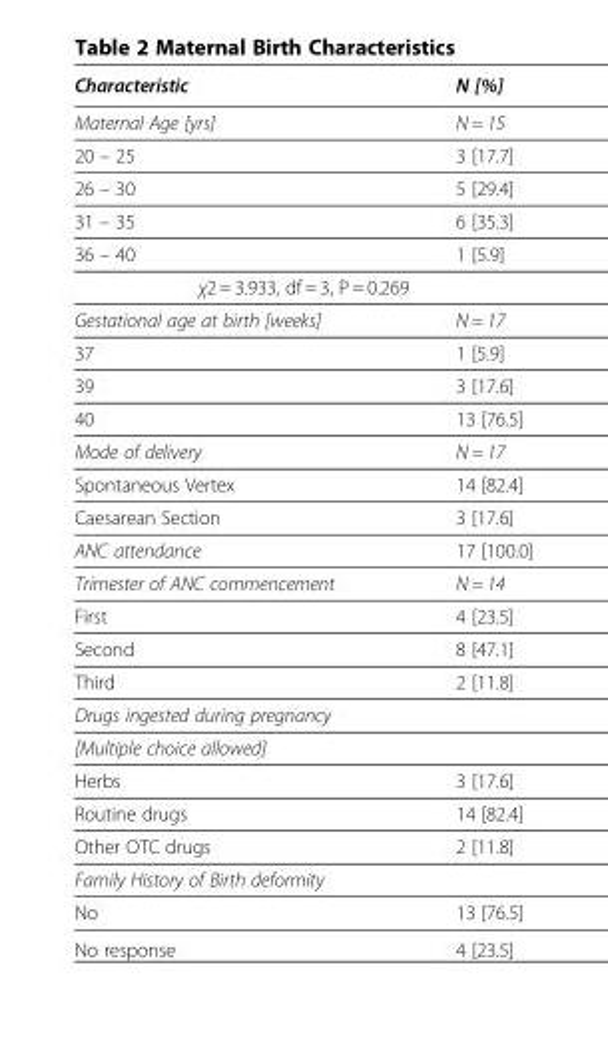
<table><thead><tr><td>Characteristic</td><td>N [%]</td></tr></thead><tbody><tr><td>Maternal Age [yrs]</td><td>N = 15</td></tr><tr><td>20 – 25</td><td>3 [17.7]</td></tr><tr><td>26 – 30</td><td>5 [29.4]</td></tr><tr><td>31 – 35</td><td>6 [35.3]</td></tr><tr><td>36 – 40</td><td>1 [5.9]</td></tr><tr><td colspan="2">χ2 = 3.933, df = 3, P = 0.269</td></tr><tr><td>Gestational age at birth [weeks]</td><td>N = 17</td></tr><tr><td>37</td><td>1 [5.9]</td></tr><tr><td>39</td><td>3 [17.6]</td></tr><tr><td>40</td><td>13 [76.5]</td></tr><tr><td>Mode of delivery</td><td>N = 17</td></tr><tr><td>Spontaneous Vertex</td><td>14 [82.4]</td></tr><tr><td>Caesarean Section</td><td>3 [17.6]</td></tr><tr><td>ANC attendance</td><td>17 [100.0]</td></tr><tr><td>Trimester of ANC commencement</td><td>N = 14</td></tr><tr><td>First</td><td>4 [23.5]</td></tr><tr><td>Second</td><td>8 [47.1]</td></tr><tr><td>Third</td><td>2 [11.8]</td></tr><tr><td colspan="2">Drugs ingested during pregnancy</td></tr><tr><td colspan="2">[Multiple choice allowed]</td></tr><tr><td>Herbs</td><td>3 [17.6]</td></tr><tr><td>Routine drugs</td><td>14 [82.4]</td></tr><tr><td>Other OTC drugs</td><td>2 [11.8]</td></tr><tr><td colspan="2">Family History of Birth deformity</td></tr><tr><td>No</td><td>13 [76.5]</td></tr><tr><td>No response</td><td>4 [23.5]</td></tr></tbody></table>